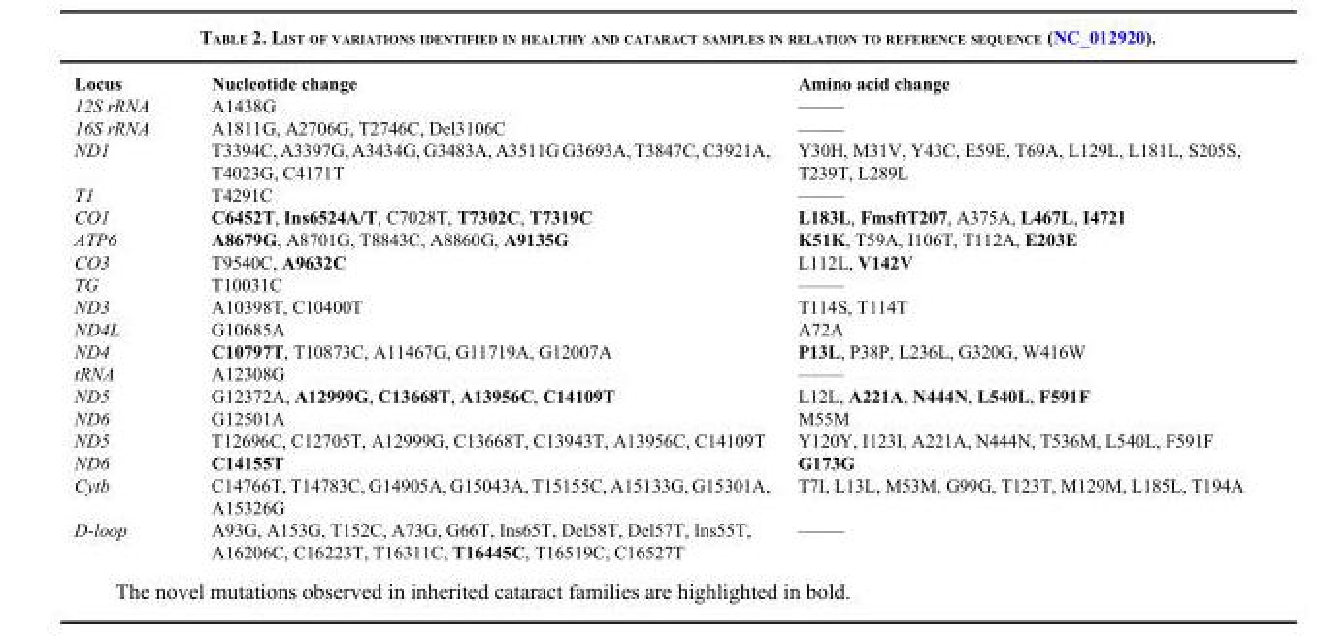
<table><thead><tr><td>Locus</td><td>Nucleotide change</td><td>Amino acid change</td></tr></thead><tbody><tr><td>12S rRNA</td><td>A1438G</td><td>——–</td></tr><tr><td>16S rRNA</td><td>A1811G, A2706G, T2746C, Del3106C</td><td>——–</td></tr><tr><td>ND1</td><td>T3394C, A3397G, A3434G, G3483A, A3511G G3693A, T3847C, C3921A, T4023G, C4171T</td><td>Y30H, M31V, Y43C, E59E, T69A, L129L, L181L, S205S, T239T, L289L</td></tr><tr><td>T1</td><td>T4291C</td><td>——–</td></tr><tr><td>CO1</td><td>C6452T, Ins6524A/T, C7028T, T7302C, T7319C</td><td>L183L, FmsftT207, A375A, L467L, I472I</td></tr><tr><td>ATP6</td><td>A8679G, A8701G, T8843C, A8860G, A9135G</td><td>K51K, T59A, I106T, T112A, E203E</td></tr><tr><td>CO3</td><td>T9540C, A9632C</td><td>L112L, V142V</td></tr><tr><td>TG</td><td>T10031C</td><td>——–</td></tr><tr><td>ND3</td><td>A10398T, C10400T</td><td>T114S, T114T</td></tr><tr><td>ND4L</td><td>G10685A</td><td>A72A</td></tr><tr><td>ND4</td><td>C10797T, T10873C, A11467G, G11719A, G12007A</td><td>P13L, P38P, L236L, G320G, W416W</td></tr><tr><td>tRNA</td><td>A12308G</td><td>——–</td></tr><tr><td>ND5</td><td>G12372A, A12999G, C13668T, A13956C, C14109T</td><td>L12L, A221A, N444N, L540L, F591F</td></tr><tr><td>ND6</td><td>G12501A</td><td>M55M</td></tr><tr><td>ND5</td><td>T12696C, C12705T, A12999G, C13668T, C13943T, A13956C, C14109T</td><td>Y120Y, I123I, A221A, N444N, T536M, L540L, F591F</td></tr><tr><td>ND6</td><td>C14155T</td><td>G173G</td></tr><tr><td>Cytb</td><td>C14766T, T14783C, G14905A, G15043A, T15155C, A15133G, G15301A, A15326G</td><td>T7I, L13L, M53M, G99G, T123T, M129M, L185L, T194A</td></tr><tr><td>D-loop</td><td>A93G, A153G, T152C, A73G, G66T, Ins65T, Del58T, Del57T, Ins55T, A16206C, C16223T, T16311C, T16445C, T16519C, C16527T</td><td>——–</td></tr></tbody></table>